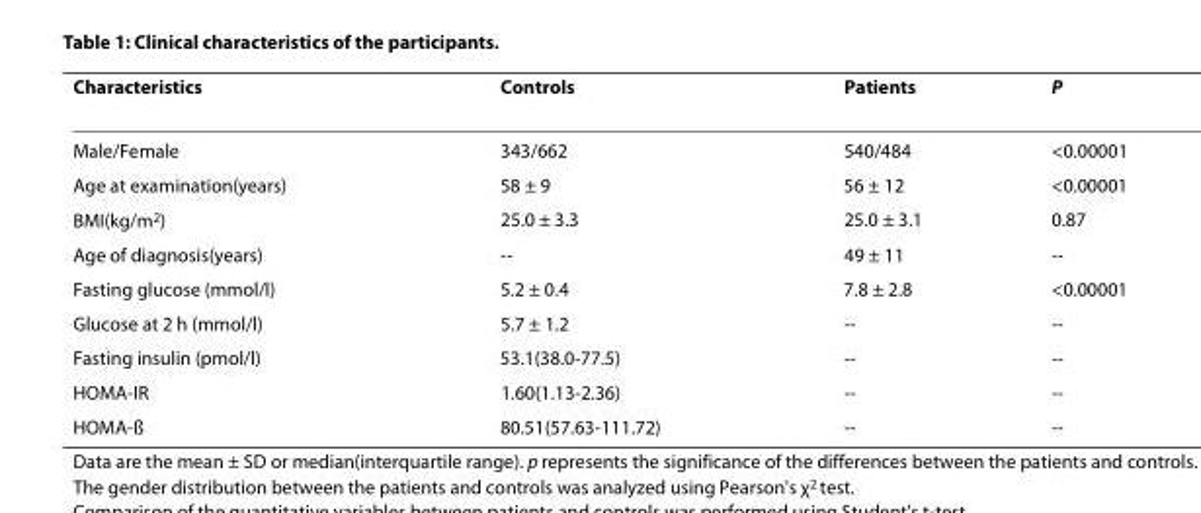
<table><thead><tr><td>Characteristics</td><td>Controls</td><td>Patients</td><td>P</td></tr></thead><tbody><tr><td>Male/Female</td><td>343/662</td><td>540/484</td><td>&lt;0.00001</td></tr><tr><td>Age at examination(years)</td><td>58 ± 9</td><td>56 ± 12</td><td>&lt;0.00001</td></tr><tr><td>BMI(kg/m<sup>2</sup>)</td><td>25.0 ± 3.3</td><td>25.0 ± 3.1</td><td>0.87</td></tr><tr><td>Age of diagnosis(years)</td><td>--</td><td>49 ± 11</td><td>--</td></tr><tr><td>Fasting glucose (mmol/l)</td><td>5.2 ± 0.4</td><td>7.8 ± 2.8</td><td>&lt;0.00001</td></tr><tr><td>Glucose at 2 h (mmol/l)</td><td>5.7 ± 1.2</td><td>--</td><td>--</td></tr><tr><td>Fasting insulin (pmol/l)</td><td>53.1(38.0-77.5)</td><td>--</td><td>--</td></tr><tr><td>HOMA-IR</td><td>1.60(1.13-2.36)</td><td>--</td><td>--</td></tr><tr><td>HOMA-ß</td><td>80.51(57.63-111.72)</td><td>--</td><td>--</td></tr></tbody></table>